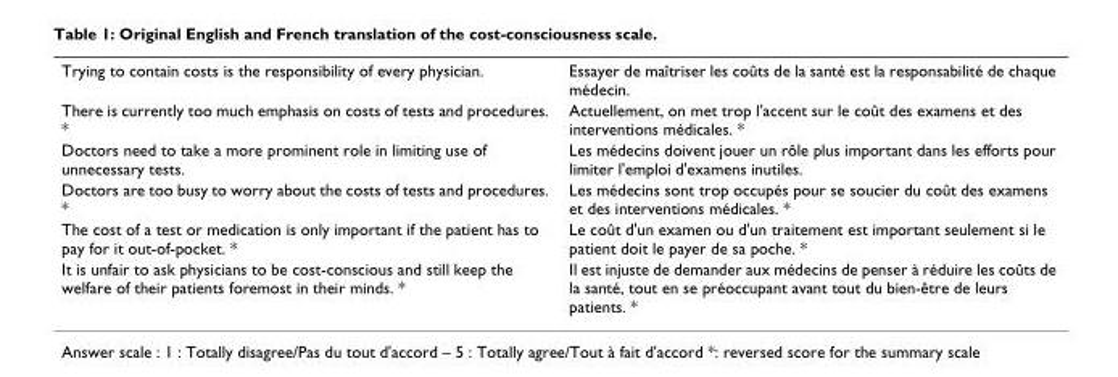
<table><tbody><tr><td>Trying to contain costs is the responsibility of every physician.</td><td>Essayer de maîtriser les coûts de la santé est la responsabilité de chaque médecin.</td></tr><tr><td>There is currently too much emphasis on costs of tests and procedures. *</td><td>Actuellement, on met trop l&#x27;accent sur le coût des examens et des interventions médicales. *</td></tr><tr><td>Doctors need to take a more prominent role in limiting use of unnecessary tests.</td><td>Les médecins doivent jouer un rôle plus important dans les efforts pour limiter l&#x27;emploi d&#x27;examens inutiles.</td></tr><tr><td>Doctors are too busy to worry about the costs of tests and procedures. *</td><td>Les médecins sont trop occupés pour se soucier du coût des examens et des interventions médicales. *</td></tr><tr><td>The cost of a test or medication is only important if the patient has to pay for it out-of-pocket. *</td><td>Le coût d&#x27;un examen ou d&#x27;un traitement est important seulement si le patient doit le payer de sa poche. *</td></tr><tr><td>It is unfair to ask physicians to be cost-conscious and still keep the welfare of their patients foremost in their minds. *</td><td>Il est injuste de demander aux médecins de penser à réduire les coûts de la santé, tout en se préoccupant avant tout du bien-être de leurs patients. *</td></tr></tbody></table>